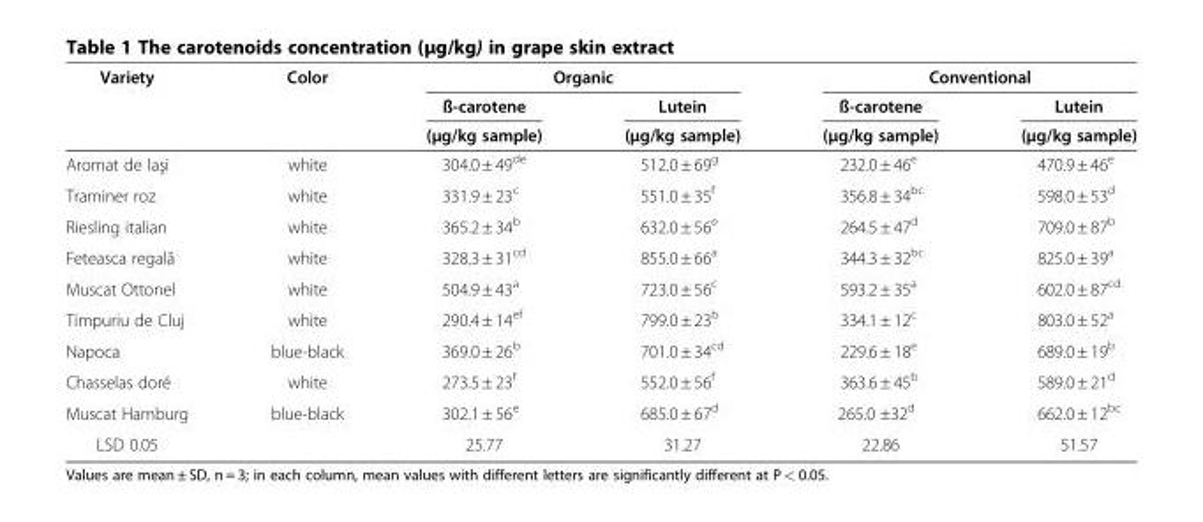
<table><thead><tr><td rowspan="3">Variety</td><td rowspan="3">Color</td><td colspan="2">Organic</td><td colspan="2">Conventional</td></tr><tr><td rowspan="2">ß-carotene (μg/kg sample)</td><td rowspan="2">Lutein (μg/kg sample)</td><td rowspan="2">ß-carotene (μg/kg sample)</td><td rowspan="2">Lutein (μg/kg sample)</td></tr><tr></tr></thead><tbody><tr><td>Aromat de Iaşi</td><td>white</td><td>304.0 ± 49<sup>de</sup></td><td>512.0 ± 69<sup>g</sup></td><td>232.0 ± 46<sup>e</sup></td><td>470.9 ± 46<sup>e</sup></td></tr><tr><td>Traminer roz</td><td>white</td><td>331.9 ± 23<sup>c</sup></td><td>551.0 ± 35<sup>f</sup></td><td>356.8 ± 34<sup>bc</sup></td><td>598.0 ± 53<sup>d</sup></td></tr><tr><td>Riesling italian</td><td>white</td><td>365.2 ± 34<sup>b</sup></td><td>632.0 ± 56<sup>e</sup></td><td>264.5 ± 47<sup>d</sup></td><td>709.0 ± 87<sup>b</sup></td></tr><tr><td>Feteasca regală</td><td>white</td><td>328.3 ± 31<sup>cd</sup></td><td>855.0 ± 66<sup>a</sup></td><td>344.3 ± 32<sup>bc</sup></td><td>825.0 ± 39<sup>a</sup></td></tr><tr><td>Muscat Ottonel</td><td>white</td><td>504.9 ± 43<sup>a</sup></td><td>723.0 ± 56<sup>c</sup></td><td>593.2 ± 35<sup>a</sup></td><td>602.0 ± 87<sup>cd</sup></td></tr><tr><td>Timpuriu de Cluj</td><td>white</td><td>290.4 ± 14<sup>ef</sup></td><td>799.0 ± 23<sup>b</sup></td><td>334.1 ± 12<sup>c</sup></td><td>803.0 ± 52<sup>a</sup></td></tr><tr><td>Napoca</td><td>blue-black</td><td>369.0 ± 26<sup>b</sup></td><td>701.0 ± 34<sup>cd</sup></td><td>229.6 ± 18<sup>e</sup></td><td>689.0 ± 19<sup>b</sup></td></tr><tr><td>Chasselas doré</td><td>white</td><td>273.5 ± 23<sup>f</sup></td><td>552.0 ± 56<sup>f</sup></td><td>363.6 ± 45<sup>b</sup></td><td>589.0 ± 21<sup>d</sup></td></tr><tr><td>Muscat Hamburg</td><td>blue-black</td><td>302.1 ± 56<sup>e</sup></td><td>685.0 ± 67<sup>d</sup></td><td>265.0 ±32<sup>d</sup></td><td>662.0 ± 12<sup>bc</sup></td></tr><tr><td>LSD 0.05</td><td></td><td>25.77</td><td>31.27</td><td>22.86</td><td>51.57</td></tr></tbody></table>